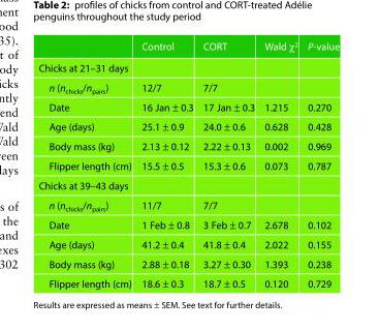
<table><thead><tr><td></td><td>Control</td><td>CORT</td><td>Wald χ<sup>2</sup></td><td>P-value</td></tr></thead><tbody><tr><td colspan="5">Chicks at 21–31 days</td></tr><tr><td>n (n<sub>chicks</sub>/n<sub>pairs</sub>)</td><td>12/7</td><td>7/7</td><td></td><td></td></tr><tr><td>Date</td><td>16 Jan ± 0.3</td><td>17 Jan ± 0.3</td><td>1.215</td><td>0.270</td></tr><tr><td>Age (days)</td><td>25.1 ± 0.9</td><td>24.0 ± 0.6</td><td>0.628</td><td>0.428</td></tr><tr><td>Body mass (kg)</td><td>2.13 ± 0.12</td><td>2.22 ± 0.13</td><td>0.002</td><td>0.969</td></tr><tr><td>Flipper length (cm)</td><td>15.5 ± 0.5</td><td>15.3 ± 0.6</td><td>0.073</td><td>0.787</td></tr><tr><td colspan="5">Chicks at 39–43 days</td></tr><tr><td>n (n<sub>chicks</sub>/n<sub>pairs</sub>)</td><td>11/7</td><td>7/7</td><td></td><td></td></tr><tr><td>Date</td><td>1 Feb ± 0.8</td><td>3 Feb ± 0.7</td><td>2.678</td><td>0.102</td></tr><tr><td>Age (days)</td><td>41.2 ± 0.4</td><td>41.8 ± 0.4</td><td>2.022</td><td>0.155</td></tr><tr><td>Body mass (kg)</td><td>2.88 ± 0.18</td><td>3.27 ± 0.30</td><td>1.393</td><td>0.238</td></tr><tr><td>Flipper length (cm)</td><td>18.6 ± 0.3</td><td>18.7 ± 0.5</td><td>0.120</td><td>0.729</td></tr></tbody></table>